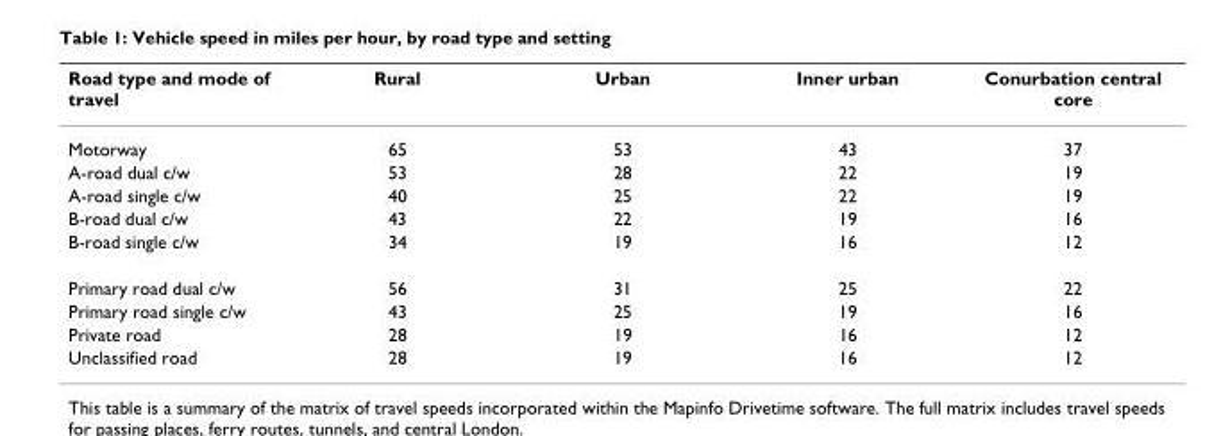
<table><thead><tr><td>Road type and mode of travel</td><td>Rural</td><td>Urban</td><td>Inner urban</td><td>Conurbation central core</td></tr></thead><tbody><tr><td>Motorway</td><td>65</td><td>53</td><td>43</td><td>37</td></tr><tr><td>A-road dual c/w</td><td>53</td><td>28</td><td>22</td><td>19</td></tr><tr><td>A-road single c/w</td><td>40</td><td>25</td><td>22</td><td>19</td></tr><tr><td>B-road dual c/w</td><td>43</td><td>22</td><td>19</td><td>16</td></tr><tr><td>B-road single c/w</td><td>34</td><td>19</td><td>16</td><td>12</td></tr><tr><td>Primary road dual c/w</td><td>56</td><td>31</td><td>25</td><td>22</td></tr><tr><td>Primary road single c/w</td><td>43</td><td>25</td><td>19</td><td>16</td></tr><tr><td>Private road</td><td>28</td><td>19</td><td>16</td><td>12</td></tr><tr><td>Unclassified road</td><td>28</td><td>19</td><td>16</td><td>12</td></tr></tbody></table>